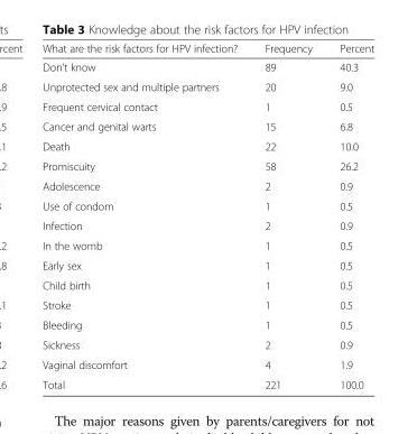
<table><thead><tr><td>What are the risk factors for HPV infection?</td><td>Frequency</td><td>Percent</td></tr></thead><tbody><tr><td>Don’t know</td><td>89</td><td>40.3</td></tr><tr><td>Unprotected sex and multiple partners</td><td>20</td><td>9.0</td></tr><tr><td>Frequent cervical contact</td><td>1</td><td>0.5</td></tr><tr><td>Cancer and genital warts</td><td>15</td><td>6.8</td></tr><tr><td>Death</td><td>22</td><td>10.0</td></tr><tr><td>Promiscuity</td><td>58</td><td>26.2</td></tr><tr><td>Adolescence</td><td>2</td><td>0.9</td></tr><tr><td>Use of condom</td><td>1</td><td>0.5</td></tr><tr><td>Infection</td><td>2</td><td>0.9</td></tr><tr><td>In the womb</td><td>1</td><td>0.5</td></tr><tr><td>Early sex</td><td>1</td><td>0.5</td></tr><tr><td>Child birth</td><td>1</td><td>0.5</td></tr><tr><td>Stroke</td><td>1</td><td>0.5</td></tr><tr><td>Bleeding</td><td>1</td><td>0.5</td></tr><tr><td>Sickness</td><td>2</td><td>0.9</td></tr><tr><td>Vaginal discomfort</td><td>4</td><td>1.9</td></tr><tr><td>Total</td><td>221</td><td>100.0</td></tr></tbody></table>